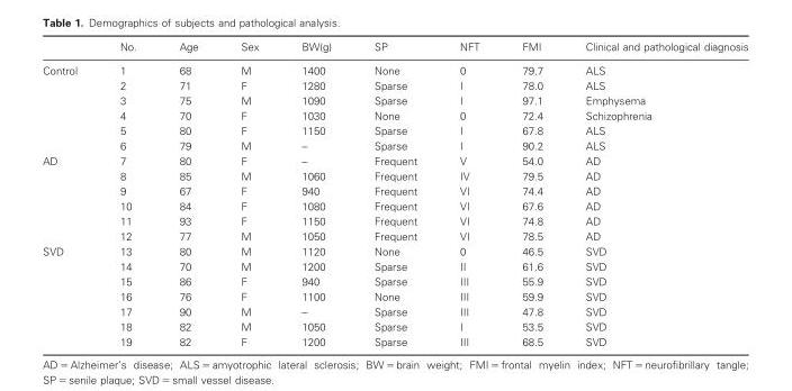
<table><thead><tr><td></td><td>No.</td><td>Age</td><td>Sex</td><td>BW(g)</td><td>SP</td><td>NFT</td><td>FMI</td><td>Clinical and pathological diagnosis</td></tr></thead><tbody><tr><td rowspan="6">Control</td><td>1</td><td>68</td><td>M</td><td>1400</td><td>None</td><td>0</td><td>79.7</td><td>ALS</td></tr><tr><td>2</td><td>71</td><td>F</td><td>1280</td><td>Sparse</td><td>I</td><td>78.0</td><td>ALS</td></tr><tr><td>3</td><td>75</td><td>M</td><td>1090</td><td>Sparse</td><td>I</td><td>97.1</td><td>Emphysema</td></tr><tr><td>4</td><td>70</td><td>F</td><td>1030</td><td>None</td><td>0</td><td>72.4</td><td>Schizophrenia</td></tr><tr><td>5</td><td>80</td><td>F</td><td>1150</td><td>Sparse</td><td>I</td><td>67.8</td><td>ALS</td></tr><tr><td>6</td><td>79</td><td>M</td><td>–</td><td>Sparse</td><td>I</td><td>90.2</td><td>ALS</td></tr><tr><td rowspan="6">AD</td><td>7</td><td>80</td><td>F</td><td>–</td><td>Frequent</td><td>V</td><td>54.0</td><td>AD</td></tr><tr><td>8</td><td>85</td><td>M</td><td>1060</td><td>Frequent</td><td>IV</td><td>79.5</td><td>AD</td></tr><tr><td>9</td><td>67</td><td>F</td><td>940</td><td>Frequent</td><td>VI</td><td>74.4</td><td>AD</td></tr><tr><td>10</td><td>84</td><td>F</td><td>1080</td><td>Frequent</td><td>VI</td><td>67.6</td><td>AD</td></tr><tr><td>11</td><td>93</td><td>F</td><td>1150</td><td>Frequent</td><td>VI</td><td>74.8</td><td>AD</td></tr><tr><td>12</td><td>77</td><td>M</td><td>1050</td><td>Frequent</td><td>VI</td><td>78.5</td><td>AD</td></tr><tr><td rowspan="7">SVD</td><td>13</td><td>80</td><td>M</td><td>1120</td><td>None</td><td>0</td><td>46.5</td><td>SVD</td></tr><tr><td>14</td><td>70</td><td>M</td><td>1200</td><td>Sparse</td><td>II</td><td>61.6</td><td>SVD</td></tr><tr><td>15</td><td>86</td><td>F</td><td>940</td><td>Sparse</td><td>III</td><td>55.9</td><td>SVD</td></tr><tr><td>16</td><td>76</td><td>F</td><td>1100</td><td>None</td><td>III</td><td>59.9</td><td>SVD</td></tr><tr><td>17</td><td>90</td><td>M</td><td>–</td><td>Sparse</td><td>III</td><td>47.8</td><td>SVD</td></tr><tr><td>18</td><td>82</td><td>M</td><td>1050</td><td>Sparse</td><td>I</td><td>53.5</td><td>SVD</td></tr><tr><td>19</td><td>82</td><td>F</td><td>1200</td><td>Sparse</td><td>III</td><td>68.5</td><td>SVD</td></tr></tbody></table>